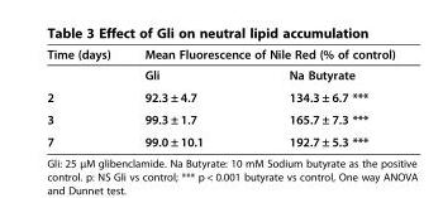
<table><thead><tr><td rowspan="2">Time (days)</td><td colspan="2">Mean Fluorescence of Nile Red (% of control)</td></tr><tr><td>Gli</td><td>Na Butyrate</td></tr></thead><tbody><tr><td>2</td><td>92.3 ± 4.7</td><td>134.3 ± 6.7 ***</td></tr><tr><td>3</td><td>99.3 ± 1.7</td><td>165.7 ± 7.3 ***</td></tr><tr><td>7</td><td>99.0 ± 10.1</td><td>192.7 ± 5.3 ***</td></tr></tbody></table>